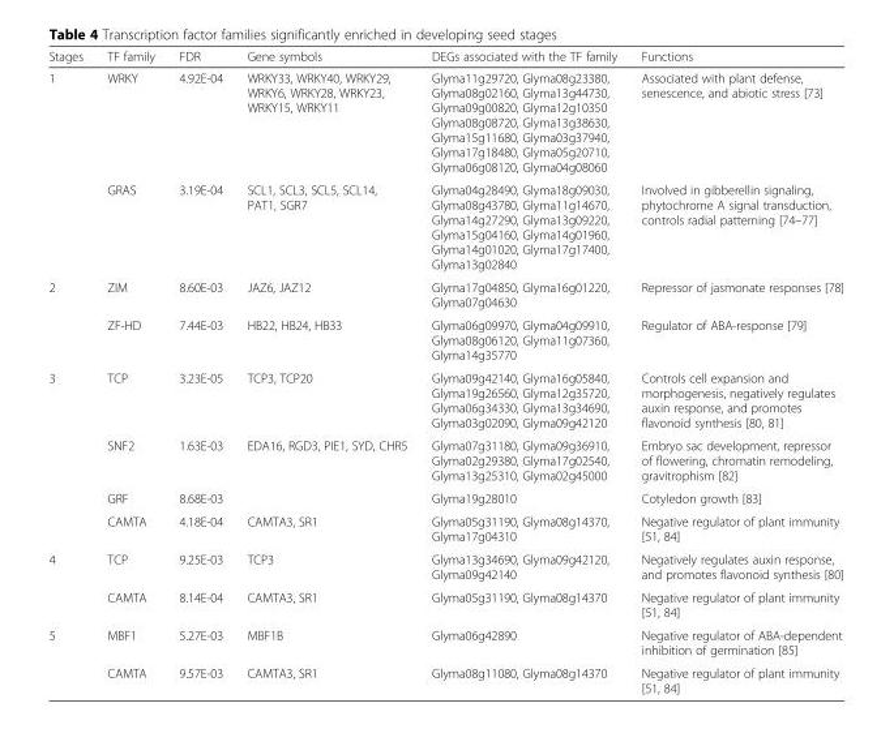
<table><thead><tr><td>Stages</td><td>TF family</td><td>FDR</td><td>Gene symbols</td><td>DEGs associated with the TF family</td><td>Functions</td></tr></thead><tbody><tr><td rowspan="2">1</td><td>WRKY</td><td>4.92E-04</td><td>WRKY33, WRKY40, WRKY29, WRKY6, WRKY28, WRKY23, WRKY15, WRKY11</td><td>Glyma11g29720, Glyma08g23380, Glyma08g02160, Glyma13g44730, Glyma09g00820, Glyma12g10350 Glyma08g08720, Glyma13g38630, Glyma15g11680, Glyma03g37940, Glyma17g18480, Glyma05g20710, Glyma06g08120, Glyma04g08060</td><td>Associated with plant defense, senescence, and abiotic stress [73]</td></tr><tr><td>GRAS</td><td>3.19E-04</td><td>SCL1, SCL3, SCL5, SCL14, PAT1, SGR7</td><td>Glyma04g28490, Glyma18g09030, Glyma08g43780, Glyma11g14670, Glyma14g27290, Glyma13g09220, Glyma15g04160, Glyma14g01960, Glyma14g01020, Glyma17g17400, Glyma13g02840</td><td>Involved in gibberellin signaling, phytochrome A signal transduction, controls radial patterning [74–77]</td></tr><tr><td rowspan="2">2</td><td>ZIM</td><td>8.60E-03</td><td>JAZ6, JAZ12</td><td>Glyma17g04850, Glyma16g01220, Glyma07g04630</td><td>Repressor of jasmonate responses [78]</td></tr><tr><td>ZF-HD</td><td>7.44E-03</td><td>HB22, HB24, HB33</td><td>Glyma06g09970, Glyma04g09910, Glyma08g06120, Glyma11g07360, Glyma14g35770</td><td>Regulator of ABA-response [79]</td></tr><tr><td rowspan="4">3</td><td>TCP</td><td>3.23E-05</td><td>TCP3, TCP20</td><td>Glyma09g42140, Glyma16g05840, Glyma19g26560, Glyma12g35720, Glyma06g34330, Glyma13g34690, Glyma03g02090, Glyma09g42120</td><td>Controls cell expansion and morphogenesis, negatively regulates auxin response, and promotes flavonoid synthesis [80, 81]</td></tr><tr><td>SNF2</td><td>1.63E-03</td><td>EDA16, RGD3, PIE1, SYD, CHR5</td><td>Glyma07g31180, Glyma09g36910, Glyma02g29380, Glyma17g02540, Glyma13g25310, Glyma02g45000</td><td>Embryo sac development, repressor of flowering, chromatin remodeling, gravitrophism [82]</td></tr><tr><td>GRF</td><td>8.68E-03</td><td></td><td>Glyma19g28010</td><td>Cotyledon growth [83]</td></tr><tr><td>CAMTA</td><td>4.18E-04</td><td>CAMTA3, SR1</td><td>Glyma05g31190, Glyma08g14370, Glyma17g04310</td><td>Negative regulator of plant immunity [51, 84]</td></tr><tr><td rowspan="2">4</td><td>TCP</td><td>9.25E-03</td><td>TCP3</td><td>Glyma13g34690, Glyma09g42120, Glyma09g42140</td><td>Negatively regulates auxin response, and promotes flavonoid synthesis [80]</td></tr><tr><td>CAMTA</td><td>8.14E-04</td><td>CAMTA3, SR1</td><td>Glyma05g31190, Glyma08g14370</td><td>Negative regulator of plant immunity [51, 84]</td></tr><tr><td rowspan="2">5</td><td>MBF1</td><td>5.27E-03</td><td>MBF1B</td><td>Glyma06g42890</td><td>Negative regulator of ABA-dependent inhibition of germination [85]</td></tr><tr><td>CAMTA</td><td>9.57E-03</td><td>CAMTA3, SR1</td><td>Glyma08g11080, Glyma08g14370</td><td>Negative regulator of plant immunity [51, 84]</td></tr></tbody></table>